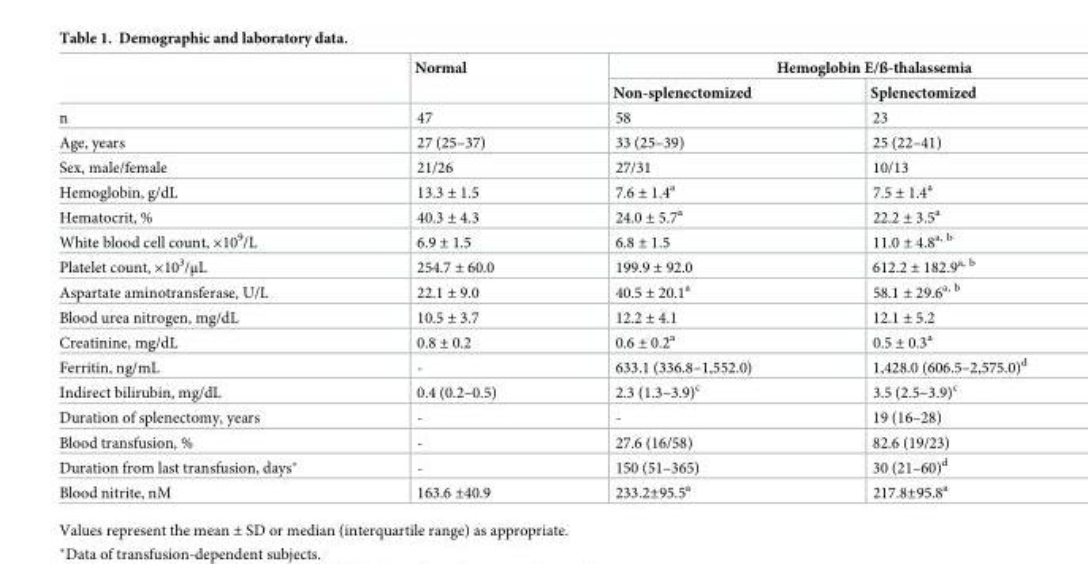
<table><thead><tr><td rowspan="2"></td><td rowspan="2">Normal</td><td colspan="2">Hemoglobin E/ß-thalassemia</td></tr><tr><td>Non-splenectomized</td><td>Splenectomized</td></tr></thead><tbody><tr><td>n</td><td>47</td><td>58</td><td>23</td></tr><tr><td>Age, years</td><td>27 (25–37)</td><td>33 (25–39)</td><td>25 (22–41)</td></tr><tr><td>Sex, male/female</td><td>21/26</td><td>27/31</td><td>10/13</td></tr><tr><td>Hemoglobin, g/dL</td><td>13.3 ± 1.5</td><td>7.6 ± 1.4<sup>a</sup></td><td>7.5 ± 1.4<sup>a</sup></td></tr><tr><td>Hematocrit, %</td><td>40.3 ± 4.3</td><td>24.0 ± 5.7<sup>a</sup></td><td>22.2 ± 3.5<sup>a</sup></td></tr><tr><td>White blood cell count, ×10<sup>9</sup>/L</td><td>6.9 ± 1.5</td><td>6.8 ± 1.5</td><td>11.0 ± 4.8<sup>a, b</sup></td></tr><tr><td>Platelet count, ×10<sup>3</sup>/μL</td><td>254.7 ± 60.0</td><td>199.9 ± 92.0</td><td>612.2 ± 182.9<sup>a, b</sup></td></tr><tr><td>Aspartate aminotransferase, U/L</td><td>22.1 ± 9.0</td><td>40.5 ± 20.1<sup>a</sup></td><td>58.1 ± 29.6<sup>a, b</sup></td></tr><tr><td>Blood urea nitrogen, mg/dL</td><td>10.5 ± 3.7</td><td>12.2 ± 4.1</td><td>12.1 ± 5.2</td></tr><tr><td>Creatinine, mg/dL</td><td>0.8 ± 0.2</td><td>0.6 ± 0.2<sup>a</sup></td><td>0.5 ± 0.3<sup>a</sup></td></tr><tr><td>Ferritin, ng/mL</td><td>-</td><td>633.1 (336.8–1,552.0)</td><td>1,428.0 (606.5–2,575.0)<sup>d</sup></td></tr><tr><td>Indirect bilirubin, mg/dL</td><td>0.4 (0.2–0.5)</td><td>2.3 (1.3–3.9)<sup>c</sup></td><td>3.5 (2.5–3.9)<sup>c</sup></td></tr><tr><td>Duration of splenectomy, years</td><td>-</td><td>-</td><td>19 (16–28)</td></tr><tr><td>Blood transfusion, %</td><td>-</td><td>27.6 (16/58)</td><td>82.6 (19/23)</td></tr><tr><td>Duration from last transfusion, days*</td><td>-</td><td>150 (51–365)</td><td>30 (21–60)<sup>d</sup></td></tr><tr><td>Blood nitrite, nM</td><td>163.6 ±40.9</td><td>233.2±95.5<sup>a</sup></td><td>217.8±95.8<sup>a</sup></td></tr></tbody></table>